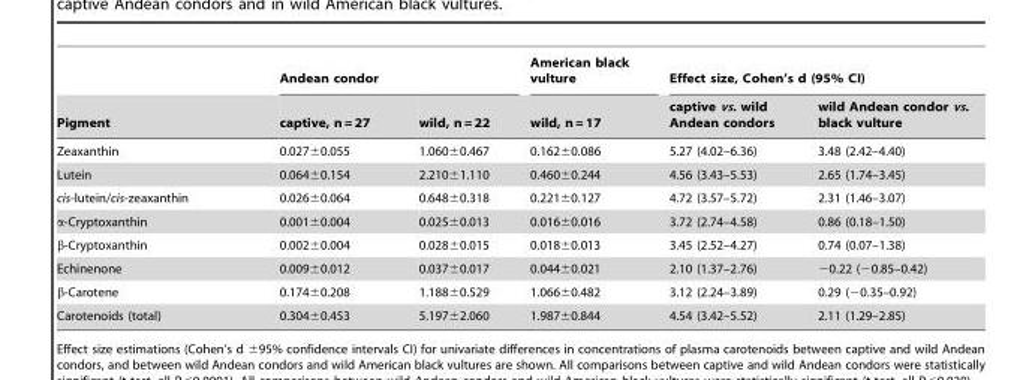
<table><thead><tr><td rowspan="2">Pigment</td><td colspan="2">Andean condor</td><td rowspan="2">American black vulture wild, n = 17</td><td colspan="2">Effect size, Cohen’s d (95% CI)</td></tr><tr><td>captive, n = 27</td><td>wild, n = 22</td><td>captive vs. wild Andean condors</td><td>wild Andean condor vs. black vulture</td></tr></thead><tbody><tr><td>Zeaxanthin</td><td>0.027±0.055</td><td>1.060±0.467</td><td>0.162±0.086</td><td>5.27 (4.02–6.36)</td><td>3.48 (2.42–4.40)</td></tr><tr><td>Lutein</td><td>0.064±0.154</td><td>2.210±1.110</td><td>0.460±0.244</td><td>4.56 (3.43–5.53)</td><td>2.65 (1.74–3.45)</td></tr><tr><td>cis-lutein/cis-zeaxanthin</td><td>0.026±0.064</td><td>0.648±0.318</td><td>0.221±0.127</td><td>4.72 (3.57–5.72)</td><td>2.31 (1.46–3.07)</td></tr><tr><td>α-Cryptoxanthin</td><td>0.001±0.004</td><td>0.025±0.013</td><td>0.016±0.016</td><td>3.72 (2.74–4.58)</td><td>0.86 (0.18–1.50)</td></tr><tr><td>β-Cryptoxanthin</td><td>0.002±0.004</td><td>0.028±0.015</td><td>0.018±0.013</td><td>3.45 (2.52–4.27)</td><td>0.74 (0.07–1.38)</td></tr><tr><td>Echinenone</td><td>0.009±0.012</td><td>0.037±0.017</td><td>0.044±0.021</td><td>2.10 (1.37–2.76)</td><td>−0.22 (−0.85–0.42)</td></tr><tr><td>β-Carotene</td><td>0.174±0.208</td><td>1.188±0.529</td><td>1.066±0.482</td><td>3.12 (2.24–3.89)</td><td>0.29 (−0.35–0.92)</td></tr><tr><td>Carotenoids (total)</td><td>0.304±0.453</td><td>5.197±2.060</td><td>1.987±0.844</td><td>4.54 (3.42–5.52)</td><td>2.11 (1.29–2.85)</td></tr></tbody></table>